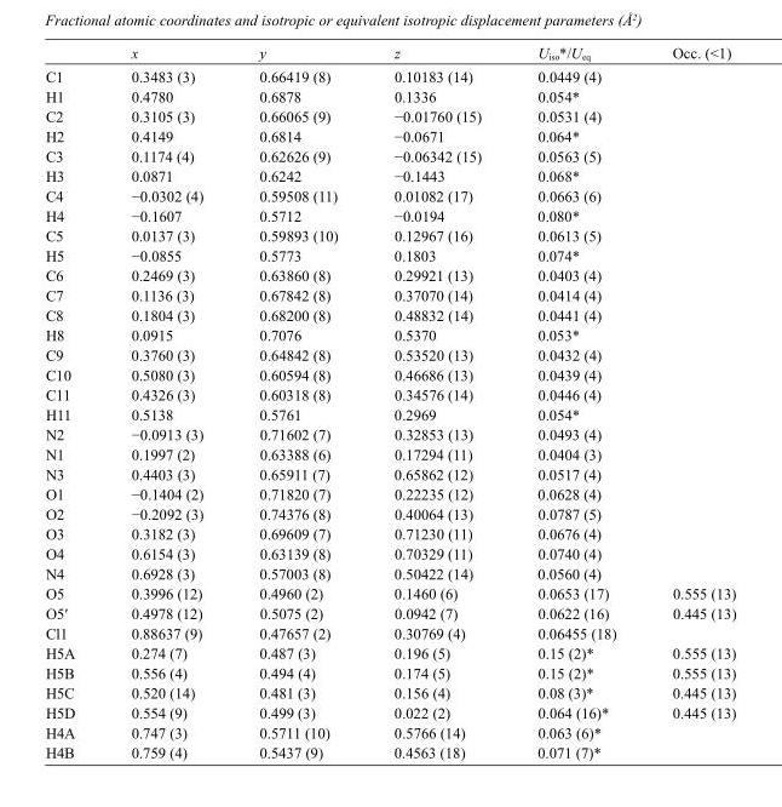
<table><thead><tr><td></td><td>x</td><td>y</td><td>z</td><td>U<sub>iso</sub>*/U<sub>eq</sub></td><td>Occ. (&lt;1)</td></tr></thead><tbody><tr><td>C1</td><td>0.3483 (3)</td><td>0.66419 (8)</td><td>0.10183 (14)</td><td>0.0449 (4)</td><td></td></tr><tr><td>H1</td><td>0.4780</td><td>0.6878</td><td>0.1336</td><td>0.054*</td><td></td></tr><tr><td>C2</td><td>0.3105 (3)</td><td>0.66065 (9)</td><td>−0.01760 (15)</td><td>0.0531 (4)</td><td></td></tr><tr><td>H2</td><td>0.4149</td><td>0.6814</td><td>−0.0671</td><td>0.064*</td><td></td></tr><tr><td>C3</td><td>0.1174 (4)</td><td>0.62626 (9)</td><td>−0.06342 (15)</td><td>0.0563 (5)</td><td></td></tr><tr><td>H3</td><td>0.0871</td><td>0.6242</td><td>−0.1443</td><td>0.068*</td><td></td></tr><tr><td>C4</td><td>−0.0302 (4)</td><td>0.59508 (11)</td><td>0.01082 (17)</td><td>0.0663 (6)</td><td></td></tr><tr><td>H4</td><td>−0.1607</td><td>0.5712</td><td>−0.0194</td><td>0.080*</td><td></td></tr><tr><td>C5</td><td>0.0137 (3)</td><td>0.59893 (10)</td><td>0.12967 (16)</td><td>0.0613 (5)</td><td></td></tr><tr><td>H5</td><td>−0.0855</td><td>0.5773</td><td>0.1803</td><td>0.074*</td><td></td></tr><tr><td>C6</td><td>0.2469 (3)</td><td>0.63860 (8)</td><td>0.29921 (13)</td><td>0.0403 (4)</td><td></td></tr><tr><td>C7</td><td>0.1136 (3)</td><td>0.67842 (8)</td><td>0.37070 (14)</td><td>0.0414 (4)</td><td></td></tr><tr><td>C8</td><td>0.1804 (3)</td><td>0.68200 (8)</td><td>0.48832 (14)</td><td>0.0441 (4)</td><td></td></tr><tr><td>H8</td><td>0.0915</td><td>0.7076</td><td>0.5370</td><td>0.053*</td><td></td></tr><tr><td>C9</td><td>0.3760 (3)</td><td>0.64842 (8)</td><td>0.53520 (13)</td><td>0.0432 (4)</td><td></td></tr><tr><td>C10</td><td>0.5080 (3)</td><td>0.60594 (8)</td><td>0.46686 (13)</td><td>0.0439 (4)</td><td></td></tr><tr><td>C11</td><td>0.4326 (3)</td><td>0.60318 (8)</td><td>0.34576 (14)</td><td>0.0446 (4)</td><td></td></tr><tr><td>H11</td><td>0.5138</td><td>0.5761</td><td>0.2969</td><td>0.054*</td><td></td></tr><tr><td>N2</td><td>−0.0913 (3)</td><td>0.71602 (7)</td><td>0.32853 (13)</td><td>0.0493 (4)</td><td></td></tr><tr><td>N1</td><td>0.1997 (2)</td><td>0.63388 (6)</td><td>0.17294 (11)</td><td>0.0404 (3)</td><td></td></tr><tr><td>N3</td><td>0.4403 (3)</td><td>0.65911 (7)</td><td>0.65862 (12)</td><td>0.0517 (4)</td><td></td></tr><tr><td>O1</td><td>−0.1404 (2)</td><td>0.71820 (7)</td><td>0.22235 (12)</td><td>0.0628 (4)</td><td></td></tr><tr><td>O2</td><td>−0.2092 (3)</td><td>0.74376 (8)</td><td>0.40064 (13)</td><td>0.0787 (5)</td><td></td></tr><tr><td>O3</td><td>0.3182 (3)</td><td>0.69609 (7)</td><td>0.71230 (11)</td><td>0.0676 (4)</td><td></td></tr><tr><td>O4</td><td>0.6154 (3)</td><td>0.63139 (8)</td><td>0.70329 (11)</td><td>0.0740 (4)</td><td></td></tr><tr><td>N4</td><td>0.6928 (3)</td><td>0.57003 (8)</td><td>0.50422 (14)</td><td>0.0560 (4)</td><td></td></tr><tr><td>O5</td><td>0.3996 (12)</td><td>0.4960 (2)</td><td>0.1460 (6)</td><td>0.0653 (17)</td><td>0.555 (13)</td></tr><tr><td>O5′</td><td>0.4978 (12)</td><td>0.5075 (2)</td><td>0.0942 (7)</td><td>0.0622 (16)</td><td>0.445 (13)</td></tr><tr><td>Cl1</td><td>0.88637 (9)</td><td>0.47657 (2)</td><td>0.30769 (4)</td><td>0.06455 (18)</td><td></td></tr><tr><td>H5A</td><td>0.274 (7)</td><td>0.487 (3)</td><td>0.196 (5)</td><td>0.15 (2)*</td><td>0.555 (13)</td></tr><tr><td>H5B</td><td>0.556 (4)</td><td>0.494 (4)</td><td>0.174 (5)</td><td>0.15 (2)*</td><td>0.555 (13)</td></tr><tr><td>H5C</td><td>0.520 (14)</td><td>0.481 (3)</td><td>0.156 (4)</td><td>0.08 (3)*</td><td>0.445 (13)</td></tr><tr><td>H5D</td><td>0.554 (9)</td><td>0.499 (3)</td><td>0.022 (2)</td><td>0.064 (16)*</td><td>0.445 (13)</td></tr><tr><td>H4A</td><td>0.747 (3)</td><td>0.5711 (10)</td><td>0.5766 (14)</td><td>0.063 (6)*</td><td></td></tr><tr><td>H4B</td><td>0.759 (4)</td><td>0.5437 (9)</td><td>0.4563 (18)</td><td>0.071 (7)*</td><td></td></tr></tbody></table>